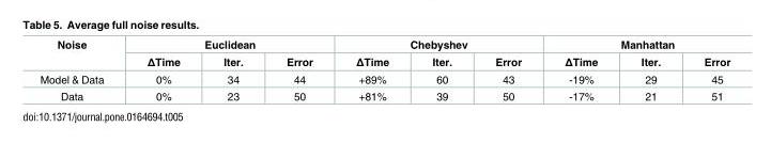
<table><thead><tr><td rowspan="2">Noise</td><td colspan="3">Euclidean</td><td colspan="3">Chebyshev</td><td colspan="3">Manhattan</td></tr><tr><td>ΔTime</td><td>Iter.</td><td>Error</td><td>ΔTime</td><td>Iter.</td><td>Error</td><td>ΔTime</td><td>Iter.</td><td>Error</td></tr></thead><tbody><tr><td>Model &amp; Data</td><td>0%</td><td>34</td><td>44</td><td>+89%</td><td>60</td><td>43</td><td>-19%</td><td>29</td><td>45</td></tr><tr><td>Data</td><td>0%</td><td>23</td><td>50</td><td>+81%</td><td>39</td><td>50</td><td>-17%</td><td>21</td><td>51</td></tr></tbody></table>